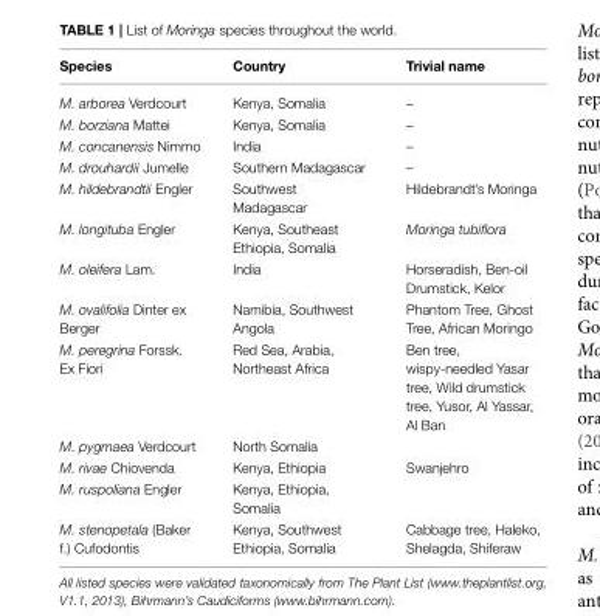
<table><thead><tr><td>Species</td><td>Country</td><td>Trivial name</td></tr></thead><tbody><tr><td>M. arborea Verdcourt</td><td>Kenya, Somalia</td><td>–</td></tr><tr><td>M. borziana Mattei</td><td>Kenya, Somalia</td><td>–</td></tr><tr><td>M. concanensis Nimmo</td><td>India</td><td>–</td></tr><tr><td>M. drouhardii Jumelle</td><td>Southern Madagascar</td><td>–</td></tr><tr><td>M. hildebrandtii Engler</td><td>Southwest Madagascar</td><td>Hildebrandt’s Moringa</td></tr><tr><td>M. longituba Engler</td><td>Kenya, Southeast Ethiopia, Somalia</td><td>Moringa tubiflora</td></tr><tr><td>M. oleifera Lam.</td><td>India</td><td>Horseradish, Ben-oil Drumstick, Kelor</td></tr><tr><td>M. ovalifolia Dinter ex Berger</td><td>Namibia, Southwest Angola</td><td>Phantom Tree, Ghost Tree, African Moringo</td></tr><tr><td>M. peregrina Forssk. Ex Fiori</td><td>Red Sea, Arabia, Northeast Africa</td><td>Ben tree, wispy-needled Yasar tree, Wild drumstick tree, Yusor, Al Yassar, Al Ban</td></tr><tr><td>M. pygmaea Verdcourt</td><td>North Somalia</td><td></td></tr><tr><td>M. rivae Chiovenda</td><td>Kenya, Ethiopia</td><td>Swanjehro</td></tr><tr><td>M. ruspoliana Engler</td><td>Kenya, Ethiopia, Somalia</td><td></td></tr><tr><td>M. stenopetala (Baker f.) Cufodontis</td><td>Kenya, Southwest Ethiopia, Somalia</td><td>Cabbage tree, Haleko, Shelagda, Shiferaw</td></tr></tbody></table>